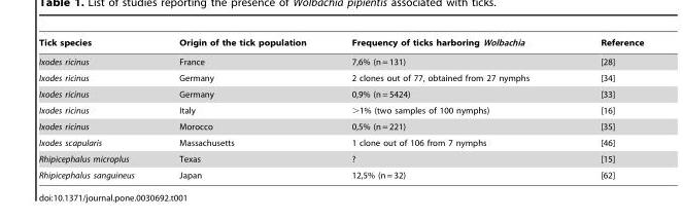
<table><thead><tr><td>Tick species</td><td>Origin of the tick population</td><td>Frequency of ticks harboring Wolbachia</td><td>Reference</td></tr></thead><tbody><tr><td>Ixodes ricinus</td><td>France</td><td>7,6% (n = 131)</td><td>[28]</td></tr><tr><td>Ixodes ricinus</td><td>Germany</td><td>2 clones out of 77, obtained from 27 nymphs</td><td>[34]</td></tr><tr><td>Ixodes ricinus</td><td>Germany</td><td>0,9% (n = 5424)</td><td>[33]</td></tr><tr><td>Ixodes ricinus</td><td>Italy</td><td>&gt;1% (two samples of 100 nymphs)</td><td>[16]</td></tr><tr><td>Ixodes ricinus</td><td>Morocco</td><td>0,5% (n = 221)</td><td>[35]</td></tr><tr><td>Ixodes scapularis</td><td>Massachusetts</td><td>1 clone out of 106 from 7 nymphs</td><td>[46]</td></tr><tr><td>Rhipicephalus microplus</td><td>Texas</td><td>?</td><td>[15]</td></tr><tr><td>Rhipicephalus sanguineus</td><td>Japan</td><td>12,5% (n = 32)</td><td>[62]</td></tr></tbody></table>